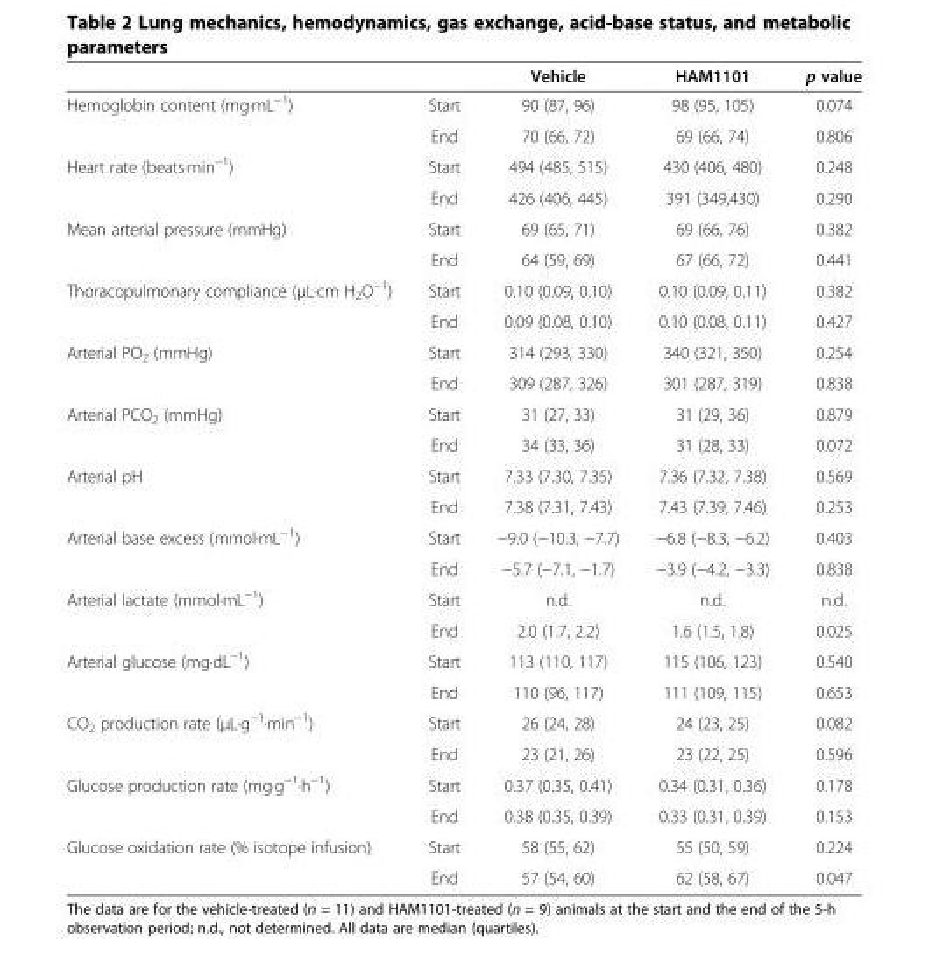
<table><thead><tr><td></td><td></td><td>Vehicle</td><td>HAM1101</td><td>p value</td></tr></thead><tbody><tr><td rowspan="2">Hemoglobin content (mg·mL<sup>−1</sup>)</td><td>Start</td><td>90 (87, 96)</td><td>98 (95, 105)</td><td>0.074</td></tr><tr><td>End</td><td>70 (66, 72)</td><td>69 (66, 74)</td><td>0.806</td></tr><tr><td rowspan="2">Heart rate (beats·min<sup>−1</sup>)</td><td>Start</td><td>494 (485, 515)</td><td>430 (406, 480)</td><td>0.248</td></tr><tr><td>End</td><td>426 (406, 445)</td><td>391 (349,430)</td><td>0.290</td></tr><tr><td rowspan="2">Mean arterial pressure (mmHg)</td><td>Start</td><td>69 (65, 71)</td><td>69 (66, 76)</td><td>0.382</td></tr><tr><td>End</td><td>64 (59, 69)</td><td>67 (66, 72)</td><td>0.441</td></tr><tr><td rowspan="2">Thoracopulmonary compliance (μL·cm H<sub>2</sub>O<sup>−1</sup>)</td><td>Start</td><td>0.10 (0.09, 0.10)</td><td>0.10 (0.09, 0.11)</td><td>0.382</td></tr><tr><td>End</td><td>0.09 (0.08, 0.10)</td><td>0.10 (0.08, 0.11)</td><td>0.427</td></tr><tr><td rowspan="2">Arterial PO<sub>2</sub> (mmHg)</td><td>Start</td><td>314 (293, 330)</td><td>340 (321, 350)</td><td>0.254</td></tr><tr><td>End</td><td>309 (287, 326)</td><td>301 (287, 319)</td><td>0.838</td></tr><tr><td rowspan="2">Arterial PCO<sub>2</sub> (mmHg)</td><td>Start</td><td>31 (27, 33)</td><td>31 (29, 36)</td><td>0.879</td></tr><tr><td>End</td><td>34 (33, 36)</td><td>31 (28, 33)</td><td>0.072</td></tr><tr><td rowspan="2">Arterial pH</td><td>Start</td><td>7.33 (7.30, 7.35)</td><td>7.36 (7.32, 7.38)</td><td>0.569</td></tr><tr><td>End</td><td>7.38 (7.31, 7.43)</td><td>7.43 (7.39, 7.46)</td><td>0.253</td></tr><tr><td rowspan="2">Arterial base excess (mmol·mL<sup>−1</sup>)</td><td>Start</td><td>−9.0 (−10.3, −7.7)</td><td>−6.8 (−8.3, −6.2)</td><td>0.403</td></tr><tr><td>End</td><td>−5.7 (−7.1, −1.7)</td><td>−3.9 (−4.2, −3.3)</td><td>0.838</td></tr><tr><td rowspan="2">Arterial lactate (mmol·mL<sup>−1</sup>)</td><td>Start</td><td>n.d.</td><td>n.d.</td><td>n.d.</td></tr><tr><td>End</td><td>2.0 (1.7, 2.2)</td><td>1.6 (1.5, 1.8)</td><td>0.025</td></tr><tr><td rowspan="2">Arterial glucose (mg·dL<sup>−1</sup>)</td><td>Start</td><td>113 (110, 117)</td><td>115 (106, 123)</td><td>0.540</td></tr><tr><td>End</td><td>110 (96, 117)</td><td>111 (109, 115)</td><td>0.653</td></tr><tr><td rowspan="2">CO<sub>2</sub> production rate (μL·g<sup>−1</sup>·min<sup>−1</sup>)</td><td>Start</td><td>26 (24, 28)</td><td>24 (23, 25)</td><td>0.082</td></tr><tr><td>End</td><td>23 (21, 26)</td><td>23 (22, 25)</td><td>0.596</td></tr><tr><td rowspan="2">Glucose production rate (mg·g<sup>−1</sup>·h<sup>−1</sup>)</td><td>Start</td><td>0.37 (0.35, 0.41)</td><td>0.34 (0.31, 0.36)</td><td>0.178</td></tr><tr><td>End</td><td>0.38 (0.35, 0.39)</td><td>0.33 (0.31, 0.39)</td><td>0.153</td></tr><tr><td rowspan="2">Glucose oxidation rate (% isotope infusion)</td><td>Start</td><td>58 (55, 62)</td><td>55 (50, 59)</td><td>0.224</td></tr><tr><td>End</td><td>57 (54, 60)</td><td>62 (58, 67)</td><td>0.047</td></tr></tbody></table>